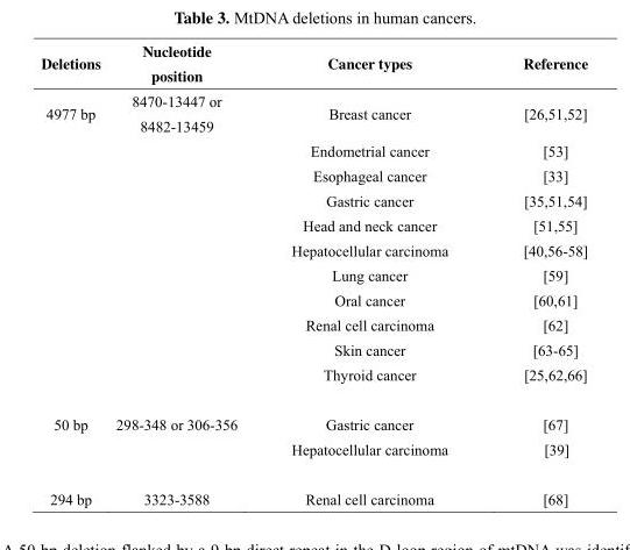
<table><thead><tr><td>Deletions</td><td>Nucleotide position</td><td>Cancer types</td><td>Reference</td></tr></thead><tbody><tr><td rowspan="11">4977 bp</td><td>8470-13447 or 8482-13459</td><td>Breast cancer</td><td>[26,51,52]</td></tr><tr><td></td><td>Endometrial cancer</td><td>[53]</td></tr><tr><td></td><td>Esophageal cancer</td><td>[33]</td></tr><tr><td></td><td>Gastric cancer</td><td>[35,51,54]</td></tr><tr><td></td><td>Head and neck cancer</td><td>[51,55]</td></tr><tr><td></td><td>Hepatocellular carcinoma</td><td>[40,56-58]</td></tr><tr><td></td><td>Lung cancer</td><td>[59]</td></tr><tr><td></td><td>Oral cancer</td><td>[60,61]</td></tr><tr><td></td><td>Renal cell carcinoma</td><td>[62]</td></tr><tr><td></td><td>Skin cancer</td><td>[63-65]</td></tr><tr><td></td><td>Thyroid cancer</td><td>[25,62,66]</td></tr><tr><td rowspan="2">50 bp</td><td>298-348 or 306-356</td><td>Gastric cancer</td><td>[67]</td></tr><tr><td></td><td>Hepatocellular carcinoma</td><td>[39]</td></tr><tr><td>294 bp</td><td>3323-3588</td><td>Renal cell carcinoma</td><td>[68]</td></tr></tbody></table>